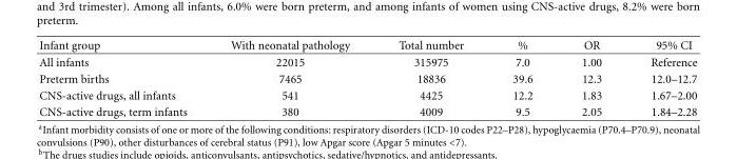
<table><thead><tr><td>Infant group</td><td>With neonatal pathology</td><td>Total number</td><td>%</td><td>OR</td><td>95% CI</td></tr></thead><tbody><tr><td>All infants</td><td>22015</td><td>315975</td><td>7.0</td><td>1.00</td><td>Reference</td></tr><tr><td>Preterm births</td><td>7465</td><td>18836</td><td>39.6</td><td>12.3</td><td>12.0–12.7</td></tr><tr><td>CNS-active drugs, all infants</td><td>541</td><td>4425</td><td>12.2</td><td>1.83</td><td>1.67–2.00</td></tr><tr><td>CNS-active drugs, term infants</td><td>380</td><td>4009</td><td>9.5</td><td>2.05</td><td>1.84–2.28</td></tr></tbody></table>